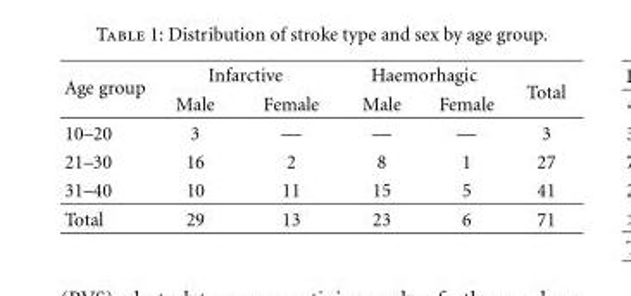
<table><thead><tr><td rowspan="2">Age group</td><td colspan="2">Infarctive</td><td colspan="2">Haemorhagic</td><td rowspan="2">Total</td></tr><tr><td>Male</td><td>Female</td><td>Male</td><td>Female</td></tr></thead><tbody><tr><td>10–20</td><td>3</td><td>—</td><td>—</td><td>—</td><td>3</td></tr><tr><td>21–30</td><td>16</td><td>2</td><td>8</td><td>1</td><td>27</td></tr><tr><td>31–40</td><td>10</td><td>11</td><td>15</td><td>5</td><td>41</td></tr><tr><td>Total</td><td>29</td><td>13</td><td>23</td><td>6</td><td>71</td></tr></tbody></table>